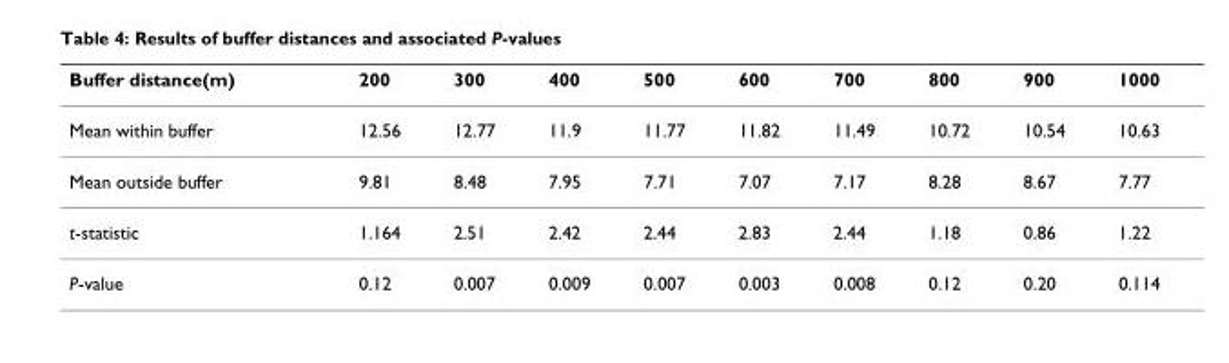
<table><thead><tr><td>Buffer distance(m)</td><td>200</td><td>300</td><td>400</td><td>500</td><td>600</td><td>700</td><td>800</td><td>900</td><td>1000</td></tr></thead><tbody><tr><td>Mean within buffer</td><td>12.56</td><td>12.77</td><td>11.9</td><td>11.77</td><td>11.82</td><td>11.49</td><td>10.72</td><td>10.54</td><td>10.63</td></tr><tr><td>Mean outside buffer</td><td>9.81</td><td>8.48</td><td>7.95</td><td>7.71</td><td>7.07</td><td>7.17</td><td>8.28</td><td>8.67</td><td>7.77</td></tr><tr><td>t-statistic</td><td>1.164</td><td>2.51</td><td>2.42</td><td>2.44</td><td>2.83</td><td>2.44</td><td>1.18</td><td>0.86</td><td>1.22</td></tr><tr><td>P-value</td><td>0.12</td><td>0.007</td><td>0.009</td><td>0.007</td><td>0.003</td><td>0.008</td><td>0.12</td><td>0.20</td><td>0.114</td></tr></tbody></table>